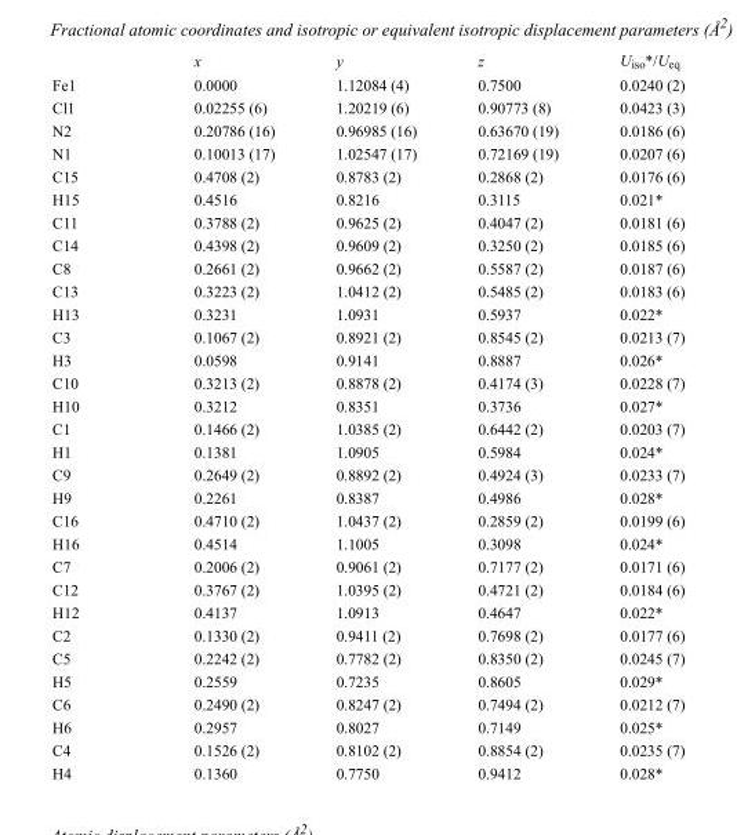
<table><thead><tr><td></td><td>x</td><td>y</td><td>z</td><td>U<sub>iso</sub>*/U<sub>eq</sub></td></tr></thead><tbody><tr><td>Fe1</td><td>0.0000</td><td>1.12084 (4)</td><td>0.7500</td><td>0.0240 (2)</td></tr><tr><td>Cl1</td><td>0.02255 (6)</td><td>1.20219 (6)</td><td>0.90773 (8)</td><td>0.0423 (3)</td></tr><tr><td>N2</td><td>0.20786 (16)</td><td>0.96985 (16)</td><td>0.63670 (19)</td><td>0.0186 (6)</td></tr><tr><td>N1</td><td>0.10013 (17)</td><td>1.02547 (17)</td><td>0.72169 (19)</td><td>0.0207 (6)</td></tr><tr><td>C15</td><td>0.4708 (2)</td><td>0.8783 (2)</td><td>0.2868 (2)</td><td>0.0176 (6)</td></tr><tr><td>H15</td><td>0.4516</td><td>0.8216</td><td>0.3115</td><td>0.021*</td></tr><tr><td>C11</td><td>0.3788 (2)</td><td>0.9625 (2)</td><td>0.4047 (2)</td><td>0.0181 (6)</td></tr><tr><td>C14</td><td>0.4398 (2)</td><td>0.9609 (2)</td><td>0.3250 (2)</td><td>0.0185 (6)</td></tr><tr><td>C8</td><td>0.2661 (2)</td><td>0.9662 (2)</td><td>0.5587 (2)</td><td>0.0187 (6)</td></tr><tr><td>C13</td><td>0.3223 (2)</td><td>1.0412 (2)</td><td>0.5485 (2)</td><td>0.0183 (6)</td></tr><tr><td>H13</td><td>0.3231</td><td>1.0931</td><td>0.5937</td><td>0.022*</td></tr><tr><td>C3</td><td>0.1067 (2)</td><td>0.8921 (2)</td><td>0.8545 (2)</td><td>0.0213 (7)</td></tr><tr><td>H3</td><td>0.0598</td><td>0.9141</td><td>0.8887</td><td>0.026*</td></tr><tr><td>C10</td><td>0.3213 (2)</td><td>0.8878 (2)</td><td>0.4174 (3)</td><td>0.0228 (7)</td></tr><tr><td>H10</td><td>0.3212</td><td>0.8351</td><td>0.3736</td><td>0.027*</td></tr><tr><td>C1</td><td>0.1466 (2)</td><td>1.0385 (2)</td><td>0.6442 (2)</td><td>0.0203 (7)</td></tr><tr><td>H1</td><td>0.1381</td><td>1.0905</td><td>0.5984</td><td>0.024*</td></tr><tr><td>C9</td><td>0.2649 (2)</td><td>0.8892 (2)</td><td>0.4924 (3)</td><td>0.0233 (7)</td></tr><tr><td>H9</td><td>0.2261</td><td>0.8387</td><td>0.4986</td><td>0.028*</td></tr><tr><td>C16</td><td>0.4710 (2)</td><td>1.0437 (2)</td><td>0.2859 (2)</td><td>0.0199 (6)</td></tr><tr><td>H16</td><td>0.4514</td><td>1.1005</td><td>0.3098</td><td>0.024*</td></tr><tr><td>C7</td><td>0.2006 (2)</td><td>0.9061 (2)</td><td>0.7177 (2)</td><td>0.0171 (6)</td></tr><tr><td>C12</td><td>0.3767 (2)</td><td>1.0395 (2)</td><td>0.4721 (2)</td><td>0.0184 (6)</td></tr><tr><td>H12</td><td>0.4137</td><td>1.0913</td><td>0.4647</td><td>0.022*</td></tr><tr><td>C2</td><td>0.1330 (2)</td><td>0.9411 (2)</td><td>0.7698 (2)</td><td>0.0177 (6)</td></tr><tr><td>C5</td><td>0.2242 (2)</td><td>0.7782 (2)</td><td>0.8350 (2)</td><td>0.0245 (7)</td></tr><tr><td>H5</td><td>0.2559</td><td>0.7235</td><td>0.8605</td><td>0.029*</td></tr><tr><td>C6</td><td>0.2490 (2)</td><td>0.8247 (2)</td><td>0.7494 (2)</td><td>0.0212 (7)</td></tr><tr><td>H6</td><td>0.2957</td><td>0.8027</td><td>0.7149</td><td>0.025*</td></tr><tr><td>C4</td><td>0.1526 (2)</td><td>0.8102 (2)</td><td>0.8854 (2)</td><td>0.0235 (7)</td></tr><tr><td>H4</td><td>0.1360</td><td>0.7750</td><td>0.9412</td><td>0.028*</td></tr></tbody></table>